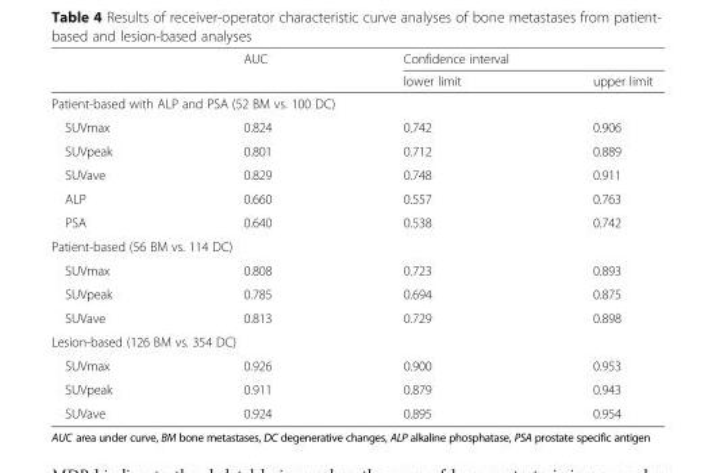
<table><thead><tr><td rowspan="2"></td><td rowspan="2">AUC</td><td colspan="2">Confidence interval</td></tr><tr><td>lower limit</td><td>upper limit</td></tr></thead><tbody><tr><td colspan="4">Patient-based with ALP and PSA (52 BM vs. 100 DC)</td></tr><tr><td>SUVmax</td><td>0.824</td><td>0.742</td><td>0.906</td></tr><tr><td>SUVpeak</td><td>0.801</td><td>0.712</td><td>0.889</td></tr><tr><td>SUVave</td><td>0.829</td><td>0.748</td><td>0.911</td></tr><tr><td>ALP</td><td>0.660</td><td>0.557</td><td>0.763</td></tr><tr><td>PSA</td><td>0.640</td><td>0.538</td><td>0.742</td></tr><tr><td colspan="4">Patient-based (56 BM vs. 114 DC)</td></tr><tr><td>SUVmax</td><td>0.808</td><td>0.723</td><td>0.893</td></tr><tr><td>SUVpeak</td><td>0.785</td><td>0.694</td><td>0.875</td></tr><tr><td>SUVave</td><td>0.813</td><td>0.729</td><td>0.898</td></tr><tr><td colspan="4">Lesion-based (126 BM vs. 354 DC)</td></tr><tr><td>SUVmax</td><td>0.926</td><td>0.900</td><td>0.953</td></tr><tr><td>SUVpeak</td><td>0.911</td><td>0.879</td><td>0.943</td></tr><tr><td>SUVave</td><td>0.924</td><td>0.895</td><td>0.954</td></tr></tbody></table>